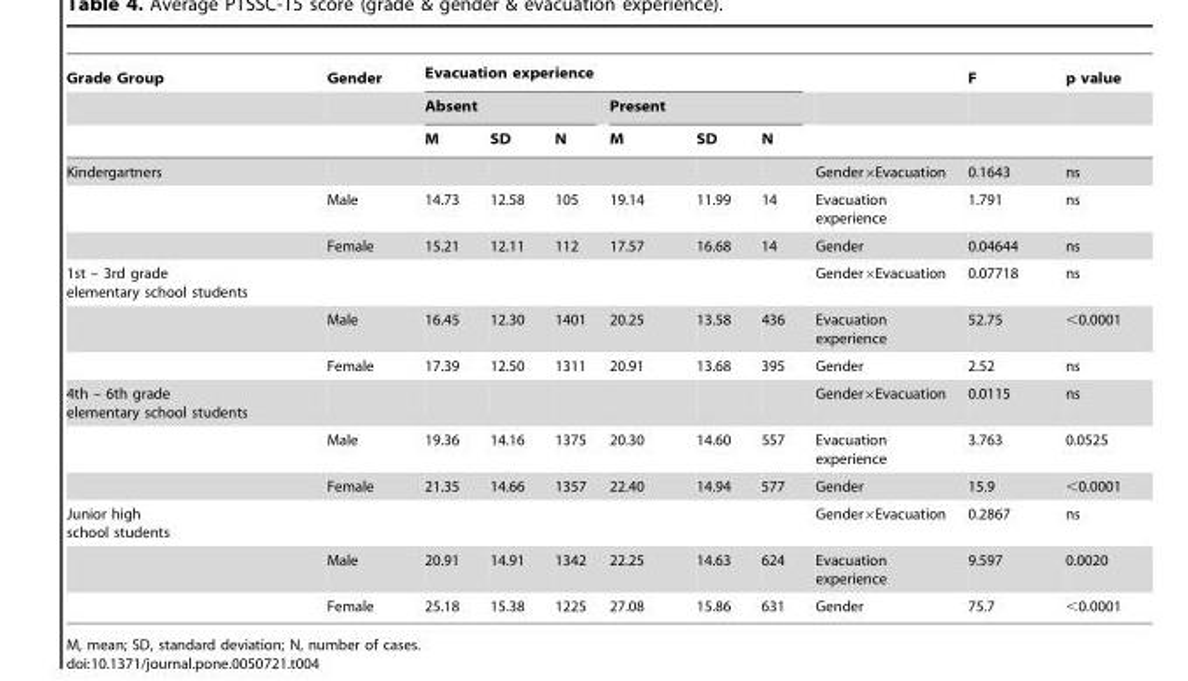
<table><thead><tr><td rowspan="3">Grade Group</td><td rowspan="3">Gender</td><td colspan="6">Evacuation experience</td><td rowspan="3"></td><td rowspan="3">F</td><td rowspan="3">p value</td></tr><tr><td colspan="3">Absent</td><td colspan="3">Present</td></tr><tr><td>M</td><td>SD</td><td>N</td><td>M</td><td>SD</td><td>N</td></tr></thead><tbody><tr><td rowspan="3">Kindergartners</td><td></td><td></td><td></td><td></td><td></td><td></td><td></td><td>Gender×Evacuation</td><td>0.1643</td><td>ns</td></tr><tr><td>Male</td><td>14.73</td><td>12.58</td><td>105</td><td>19.14</td><td>11.99</td><td>14</td><td>Evacuation experience</td><td>1.791</td><td>ns</td></tr><tr><td>Female</td><td>15.21</td><td>12.11</td><td>112</td><td>17.57</td><td>16.68</td><td>14</td><td>Gender</td><td>0.04644</td><td>ns</td></tr><tr><td rowspan="3">1st – 3rd grade elementary school students</td><td></td><td></td><td></td><td></td><td></td><td></td><td></td><td>Gender×Evacuation</td><td>0.07718</td><td>ns</td></tr><tr><td>Male</td><td>16.45</td><td>12.30</td><td>1401</td><td>20.25</td><td>13.58</td><td>436</td><td>Evacuation experience</td><td>52.75</td><td>&lt;0.0001</td></tr><tr><td>Female</td><td>17.39</td><td>12.50</td><td>1311</td><td>20.91</td><td>13.68</td><td>395</td><td>Gender</td><td>2.52</td><td>ns</td></tr><tr><td rowspan="3">4th – 6th grade elementary school students</td><td></td><td></td><td></td><td></td><td></td><td></td><td></td><td>Gender×Evacuation</td><td>0.0115</td><td>ns</td></tr><tr><td>Male</td><td>19.36</td><td>14.16</td><td>1375</td><td>20.30</td><td>14.60</td><td>557</td><td>Evacuation experience</td><td>3.763</td><td>0.0525</td></tr><tr><td>Female</td><td>21.35</td><td>14.66</td><td>1357</td><td>22.40</td><td>14.94</td><td>577</td><td>Gender</td><td>15.9</td><td>&lt;0.0001</td></tr><tr><td rowspan="3">Junior high school students</td><td></td><td></td><td></td><td></td><td></td><td></td><td></td><td>Gender×Evacuation</td><td>0.2867</td><td>ns</td></tr><tr><td>Male</td><td>20.91</td><td>14.91</td><td>1342</td><td>22.25</td><td>14.63</td><td>624</td><td>Evacuation experience</td><td>9.597</td><td>0.0020</td></tr><tr><td>Female</td><td>25.18</td><td>15.38</td><td>1225</td><td>27.08</td><td>15.86</td><td>631</td><td>Gender</td><td>75.7</td><td>&lt;0.0001</td></tr></tbody></table>